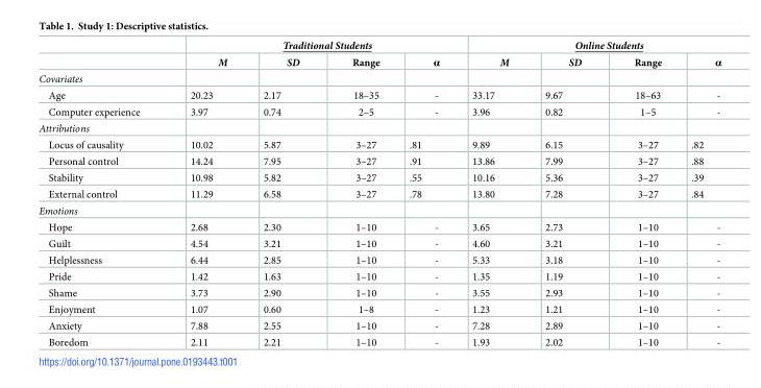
<table><thead><tr><td rowspan="2"></td><td colspan="4">Traditional Students</td><td colspan="4">Online Students</td></tr><tr><td>M</td><td>SD</td><td>Range</td><td>α</td><td>M</td><td>SD</td><td>Range</td><td>α</td></tr></thead><tbody><tr><td colspan="9">Covariates</td></tr><tr><td>Age</td><td>20.23</td><td>2.17</td><td>18–35</td><td>-</td><td>33.17</td><td>9.67</td><td>18–63</td><td>-</td></tr><tr><td>Computer experience</td><td>3.97</td><td>0.74</td><td>2–5</td><td>-</td><td>3.96</td><td>0.82</td><td>1–5</td><td>-</td></tr><tr><td colspan="9">Attributions</td></tr><tr><td>Locus of causality</td><td>10.02</td><td>5.87</td><td>3–27</td><td>.81</td><td>9.89</td><td>6.15</td><td>3–27</td><td>.82</td></tr><tr><td>Personal control</td><td>14.24</td><td>7.95</td><td>3–27</td><td>.91</td><td>13.86</td><td>7.99</td><td>3–27</td><td>.88</td></tr><tr><td>Stability</td><td>10.98</td><td>5.82</td><td>3–27</td><td>.55</td><td>10.16</td><td>5.36</td><td>3–27</td><td>.39</td></tr><tr><td>External control</td><td>11.29</td><td>6.58</td><td>3–27</td><td>.78</td><td>13.80</td><td>7.28</td><td>3–27</td><td>.84</td></tr><tr><td colspan="9">Emotions</td></tr><tr><td>Hope</td><td>2.68</td><td>2.30</td><td>1–10</td><td>-</td><td>3.65</td><td>2.73</td><td>1–10</td><td>-</td></tr><tr><td>Guilt</td><td>4.54</td><td>3.21</td><td>1–10</td><td>-</td><td>4.60</td><td>3.21</td><td>1–10</td><td>-</td></tr><tr><td>Helplessness</td><td>6.44</td><td>2.85</td><td>1–10</td><td>-</td><td>5.33</td><td>3.18</td><td>1–10</td><td>-</td></tr><tr><td>Pride</td><td>1.42</td><td>1.63</td><td>1–10</td><td>-</td><td>1.35</td><td>1.19</td><td>1–10</td><td>-</td></tr><tr><td>Shame</td><td>3.73</td><td>2.90</td><td>1–10</td><td>-</td><td>3.55</td><td>2.93</td><td>1–10</td><td>-</td></tr><tr><td>Enjoyment</td><td>1.07</td><td>0.60</td><td>1–8</td><td>-</td><td>1.23</td><td>1.21</td><td>1–10</td><td>-</td></tr><tr><td>Anxiety</td><td>7.88</td><td>2.55</td><td>1–10</td><td>-</td><td>7.28</td><td>2.89</td><td>1–10</td><td>-</td></tr><tr><td>Boredom</td><td>2.11</td><td>2.21</td><td>1–10</td><td>-</td><td>1.93</td><td>2.02</td><td>1–10</td><td>-</td></tr></tbody></table>